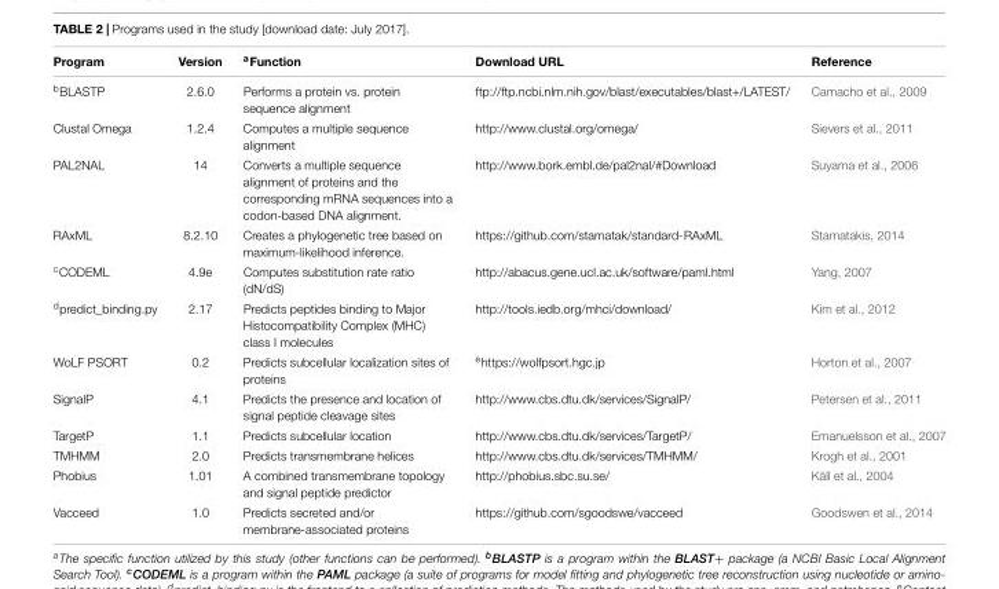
<table><thead><tr><td>Program</td><td>Version</td><td><sup>a</sup>Function</td><td>Download URL</td><td>Reference</td></tr></thead><tbody><tr><td><sup>b</sup>BLASTP</td><td>2.6.0</td><td>Performs a protein vs. protein sequence alignment</td><td>ftp://ftp.ncbi.nlm.nih.gov/blast/executables/blast+/LATEST/</td><td>Camacho et al., 2009</td></tr><tr><td>Clustal Omega</td><td>1.2.4</td><td>Computes a multiple sequence alignment</td><td>http://www.clustal.org/omega/</td><td>Sievers et al., 2011</td></tr><tr><td>PAL2NAL</td><td>14</td><td>Converts a multiple sequence alignment of proteins and the corresponding mRNA sequences into a codon-based DNA alignment.</td><td>http://www.bork.embl.de/pal2nal/#Download</td><td>Suyama et al., 2006</td></tr><tr><td>RAxML</td><td>8.2.10</td><td>Creates a phylogenetic tree based on maximum-likelihood inference.</td><td>https://github.com/stamatak/standard-RAxML</td><td>Stamatakis, 2014</td></tr><tr><td><sup>c</sup>CODEML</td><td>4.9e</td><td>Computes substitution rate ratio (dN/dS)</td><td>http://abacus.gene.ucl.ac.uk/software/paml.html</td><td>Yang, 2007</td></tr><tr><td><sup>d</sup>predict_binding.py</td><td>2.17</td><td>Predicts peptides binding to Major Histocompatibility Complex (MHC) class I molecules</td><td>http://tools.iedb.org/mhci/download/</td><td>Kim et al., 2012</td></tr><tr><td>WoLF PSORT</td><td>0.2</td><td>Predicts subcellular localization sites of proteins</td><td><sup>e</sup>https://wolfpsort.hgc.jp</td><td>Horton et al., 2007</td></tr><tr><td>SignalP</td><td>4.1</td><td>Predicts the presence and location of signal peptide cleavage sites</td><td>http://www.cbs.dtu.dk/services/SignalP/</td><td>Petersen et al., 2011</td></tr><tr><td>TargetP</td><td>1.1</td><td>Predicts subcellular location</td><td>http://www.cbs.dtu.dk/services/TargetP/</td><td>Emanuelsson et al., 2007</td></tr><tr><td>TMHMM</td><td>2.0</td><td>Predicts transmembrane helices</td><td>http://www.cbs.dtu.dk/services/TMHMM/</td><td>Krogh et al., 2001</td></tr><tr><td>Phobius</td><td>1.01</td><td>A combined transmembrane topology and signal peptide predictor</td><td>http://phobius.sbc.su.se/</td><td>Käll et al., 2004</td></tr><tr><td>Vacceed</td><td>1.0</td><td>Predicts secreted and/or membrane-associated proteins</td><td>https://github.com/sgoodswe/vacceed</td><td>Goodswen et al., 2014</td></tr></tbody></table>